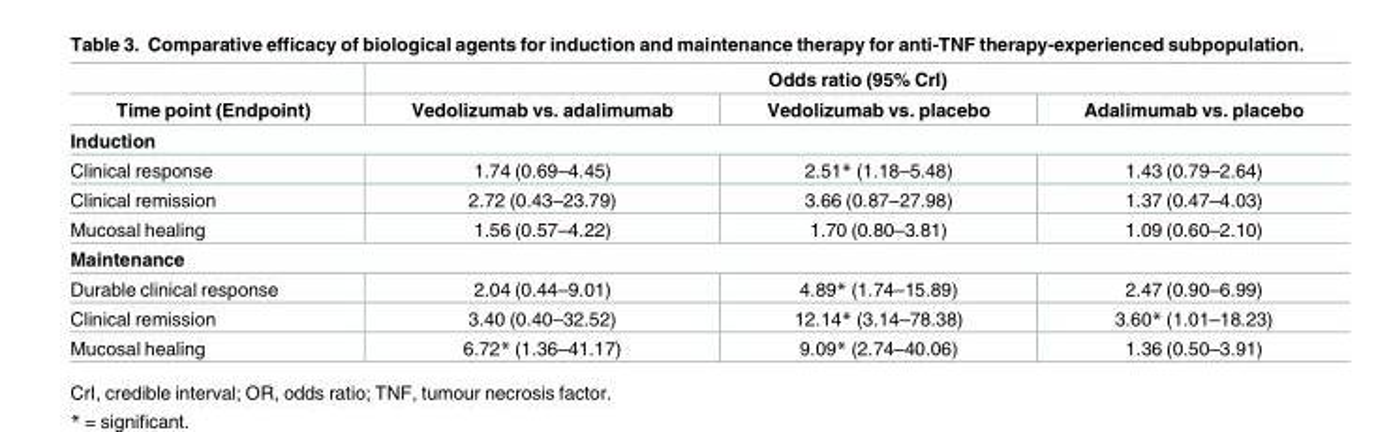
<table><thead><tr><td rowspan="2">Time point (Endpoint)</td><td colspan="3">Odds ratio (95% CrI)</td></tr><tr><td>Vedolizumab vs. adalimumab</td><td>Vedolizumab vs. placebo</td><td>Adalimumab vs. placebo</td></tr></thead><tbody><tr><td colspan="4">Induction</td></tr><tr><td>Clinical response</td><td>1.74 (0.69–4.45)</td><td>2.51* (1.18–5.48)</td><td>1.43 (0.79–2.64)</td></tr><tr><td>Clinical remission</td><td>2.72 (0.43–23.79)</td><td>3.66 (0.87–27.98)</td><td>1.37 (0.47–4.03)</td></tr><tr><td>Mucosal healing</td><td>1.56 (0.57–4.22)</td><td>1.70 (0.80–3.81)</td><td>1.09 (0.60–2.10)</td></tr><tr><td colspan="4">Maintenance</td></tr><tr><td>Durable clinical response</td><td>2.04 (0.44–9.01)</td><td>4.89* (1.74–15.89)</td><td>2.47 (0.90–6.99)</td></tr><tr><td>Clinical remission</td><td>3.40 (0.40–32.52)</td><td>12.14* (3.14–78.38)</td><td>3.60* (1.01–18.23)</td></tr><tr><td>Mucosal healing</td><td>6.72* (1.36–41.17)</td><td>9.09* (2.74–40.06)</td><td>1.36 (0.50–3.91)</td></tr></tbody></table>